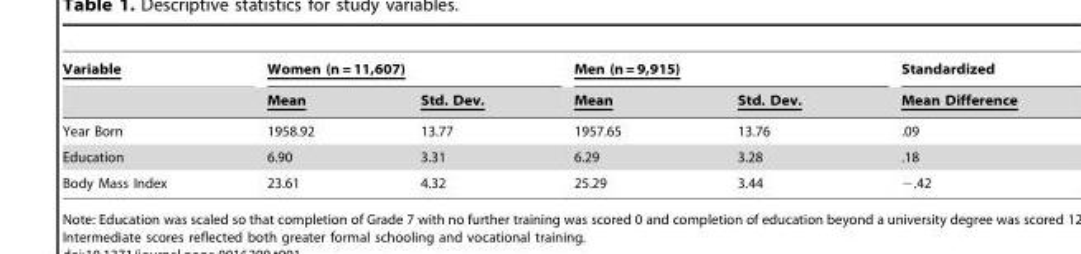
<table><thead><tr><td rowspan="2">Variable</td><td colspan="2">Women (n = 11,607)</td><td colspan="2">Men (n = 9,915)</td><td rowspan="2">Standardized Mean Difference</td></tr><tr><td>Mean</td><td>Std. Dev.</td><td>Mean</td><td>Std. Dev.</td></tr></thead><tbody><tr><td>Year Born</td><td>1958.92</td><td>13.77</td><td>1957.65</td><td>13.76</td><td>.09</td></tr><tr><td>Education</td><td>6.90</td><td>3.31</td><td>6.29</td><td>3.28</td><td>.18</td></tr><tr><td>Body Mass Index</td><td>23.61</td><td>4.32</td><td>25.29</td><td>3.44</td><td>−.42</td></tr></tbody></table>